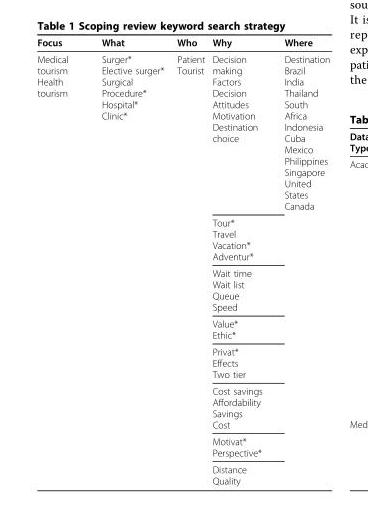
<table><thead><tr><td>Focus</td><td>What</td><td>Who</td><td>Why</td><td>Where</td></tr></thead><tbody><tr><td rowspan="8">Medical tourism Health tourism</td><td>Surger* Elective surger* Surgical Procedure* Hospital* Clinic*</td><td>Patient Tourist</td><td>Decision making Factors Decision Attitudes Motivation Destination choice</td><td>Destination Brazil India Thailand South Africa Indonesia Cuba Mexico Philippines Singapore United States Canada</td></tr><tr><td></td><td></td><td>Tour* Travel Vacation* Adventur*</td><td></td></tr><tr><td></td><td></td><td>Wait time Wait list Queue Speed</td><td></td></tr><tr><td></td><td></td><td>Value* Ethic*</td><td></td></tr><tr><td></td><td></td><td>Privat* Effects Two tier</td><td></td></tr><tr><td></td><td></td><td>Cost savings Affordability Savings Cost</td><td></td></tr><tr><td></td><td></td><td>Motivat* Perspective*</td><td></td></tr><tr><td></td><td></td><td>Distance Quality</td><td></td></tr></tbody></table>